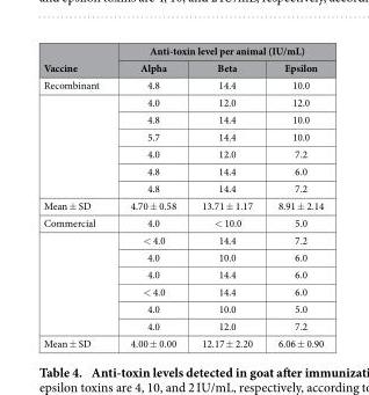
<table><thead><tr><td rowspan="2">Vaccine</td><td colspan="3">Anti-toxin level per animal (IU/mL)</td></tr><tr><td>Alpha</td><td>Beta</td><td>Epsilon</td></tr></thead><tbody><tr><td rowspan="7">Recombinant</td><td>4.8</td><td>14.4</td><td>10.0</td></tr><tr><td>4.0</td><td>12.0</td><td>12.0</td></tr><tr><td>4.8</td><td>14.4</td><td>10.0</td></tr><tr><td>5.7</td><td>14.4</td><td>10.0</td></tr><tr><td>4.0</td><td>12.0</td><td>7.2</td></tr><tr><td>4.8</td><td>14.4</td><td>6.0</td></tr><tr><td>4.8</td><td>14.4</td><td>7.2</td></tr><tr><td>Mean ± SD</td><td>4.70 ± 0.58</td><td>13.71 ± 1.17</td><td>8.91 ± 2.14</td></tr><tr><td rowspan="7">Commercial</td><td>4.0</td><td>&lt; 10.0</td><td>5.0</td></tr><tr><td>&lt; 4.0</td><td>14.4</td><td>7.2</td></tr><tr><td>4.0</td><td>10.0</td><td>6.0</td></tr><tr><td>4.0</td><td>14.4</td><td>6.0</td></tr><tr><td>&lt; 4.0</td><td>14.4</td><td>6.0</td></tr><tr><td>4.0</td><td>10.0</td><td>5.0</td></tr><tr><td>4.0</td><td>12.0</td><td>7.2</td></tr><tr><td>Mean ± SD</td><td>4.00 ± 0.00</td><td>12.17 ± 2.20</td><td>6.06 ± 0.90</td></tr></tbody></table>